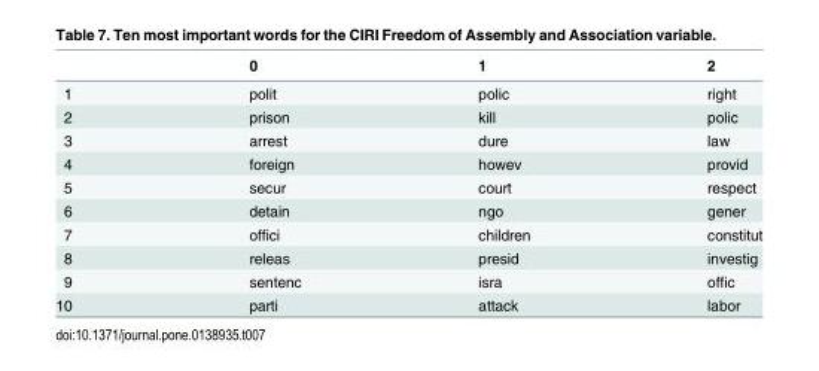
<table><thead><tr><td></td><td>0</td><td>1</td><td>2</td></tr></thead><tbody><tr><td>1</td><td>polit</td><td>polic</td><td>right</td></tr><tr><td>2</td><td>prison</td><td>kill</td><td>polic</td></tr><tr><td>3</td><td>arrest</td><td>dure</td><td>law</td></tr><tr><td>4</td><td>foreign</td><td>howev</td><td>provid</td></tr><tr><td>5</td><td>secur</td><td>court</td><td>respect</td></tr><tr><td>6</td><td>detain</td><td>ngo</td><td>gener</td></tr><tr><td>7</td><td>offici</td><td>children</td><td>constitut</td></tr><tr><td>8</td><td>releas</td><td>presid</td><td>investig</td></tr><tr><td>9</td><td>sentenc</td><td>isra</td><td>offic</td></tr><tr><td>10</td><td>parti</td><td>attack</td><td>labor</td></tr></tbody></table>